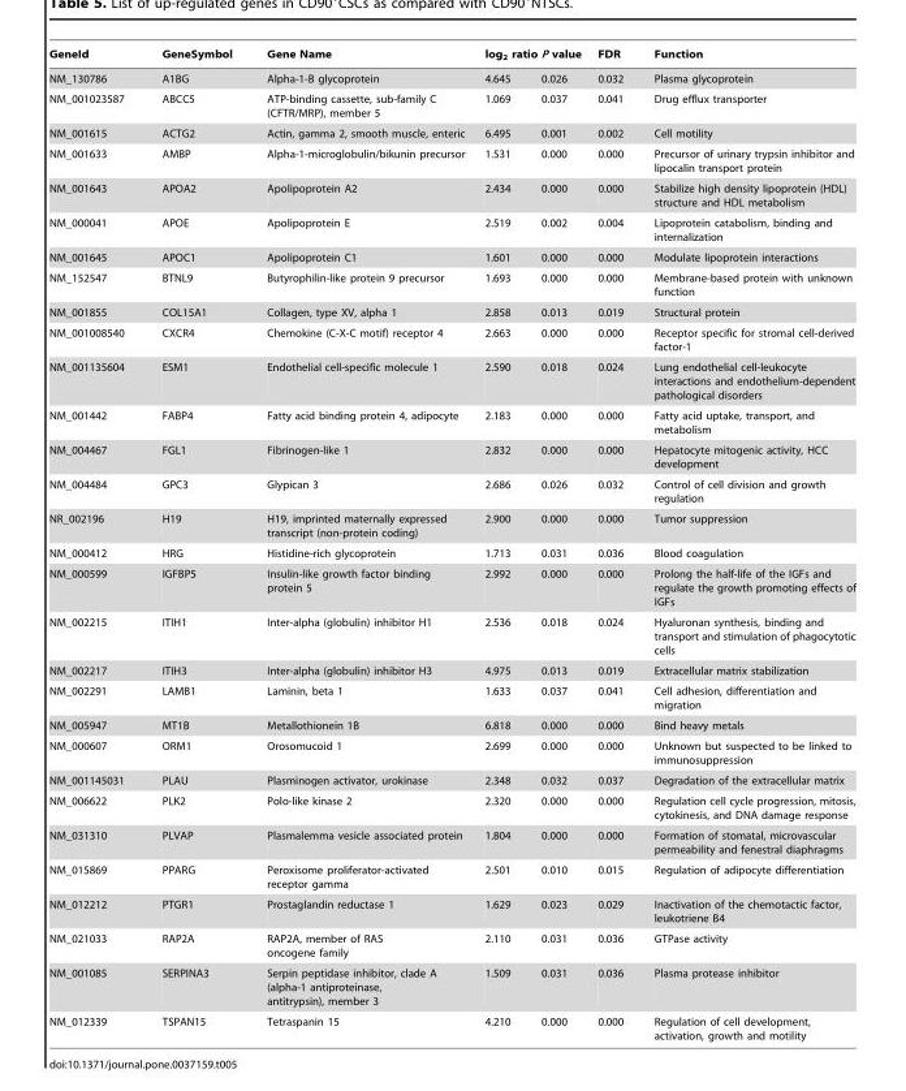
<table><thead><tr><td>GeneId</td><td>GeneSymbol</td><td>Gene Name</td><td>log<sub>2</sub> ratio</td><td>P value</td><td>FDR</td><td>Function</td></tr></thead><tbody><tr><td>NM_130786</td><td>A1BG</td><td>Alpha-1-B glycoprotein</td><td>4.645</td><td>0.026</td><td>0.032</td><td>Plasma glycoprotein</td></tr><tr><td>NM_001023587</td><td>ABCC5</td><td>ATP-binding cassette, sub-family C (CFTR/MRP), member 5</td><td>1.069</td><td>0.037</td><td>0.041</td><td>Drug efflux transporter</td></tr><tr><td>NM_001615</td><td>ACTG2</td><td>Actin, gamma 2, smooth muscle, enteric</td><td>6.495</td><td>0.001</td><td>0.002</td><td>Cell motility</td></tr><tr><td>NM_001633</td><td>AMBP</td><td>Alpha-1-microglobulin/bikunin precursor</td><td>1.531</td><td>0.000</td><td>0.000</td><td>Precursor of urinary trypsin inhibitor and lipocalin transport protein</td></tr><tr><td>NM_001643</td><td>APOA2</td><td>Apolipoprotein A2</td><td>2.434</td><td>0.000</td><td>0.000</td><td>Stabilize high density lipoprotein (HDL) structure and HDL metabolism</td></tr><tr><td>NM_000041</td><td>APOE</td><td>Apolipoprotein E</td><td>2.519</td><td>0.002</td><td>0.004</td><td>Lipoprotein catabolism, binding and internalization</td></tr><tr><td>NM_001645</td><td>APOC1</td><td>Apolipoprotein C1</td><td>1.601</td><td>0.000</td><td>0.000</td><td>Modulate lipoprotein interactions</td></tr><tr><td>NM_152547</td><td>BTNL9</td><td>Butyrophilin-like protein 9 precursor</td><td>1.693</td><td>0.000</td><td>0.000</td><td>Membrane-based protein with unknown function</td></tr><tr><td>NM_001855</td><td>COL15A1</td><td>Collagen, type XV, alpha 1</td><td>2.858</td><td>0.013</td><td>0.019</td><td>Structural protein</td></tr><tr><td>NM_001008540</td><td>CXCR4</td><td>Chemokine (C-X-C motif) receptor 4</td><td>2.663</td><td>0.000</td><td>0.000</td><td>Receptor specific for stromal cell-derived factor-1</td></tr><tr><td>NM_001135604</td><td>ESM1</td><td>Endothelial cell-specific molecule 1</td><td>2.590</td><td>0.018</td><td>0.024</td><td>Lung endothelial cell-leukocyte interactions and endothelium-dependent pathological disorders</td></tr><tr><td>NM_001442</td><td>FABP4</td><td>Fatty acid binding protein 4, adipocyte</td><td>2.183</td><td>0.000</td><td>0.000</td><td>Fatty acid uptake, transport, and metabolism</td></tr><tr><td>NM_004467</td><td>FGL1</td><td>Fibrinogen-like 1</td><td>2.832</td><td>0.000</td><td>0.000</td><td>Hepatocyte mitogenic activity, HCC development</td></tr><tr><td>NM_004484</td><td>GPC3</td><td>Glypican 3</td><td>2.686</td><td>0.026</td><td>0.032</td><td>Control of cell division and growth regulation</td></tr><tr><td>NR_002196</td><td>H19</td><td>H19, imprinted maternally expressed transcript (non-protein coding)</td><td>2.900</td><td>0.000</td><td>0.000</td><td>Tumor suppression</td></tr><tr><td>NM_000412</td><td>HRG</td><td>Histidine-rich glycoprotein</td><td>1.713</td><td>0.031</td><td>0.036</td><td>Blood coagulation</td></tr><tr><td>NM_000599</td><td>IGFBP5</td><td>Insulin-like growth factor binding protein 5</td><td>2.992</td><td>0.000</td><td>0.000</td><td>Prolong the half-life of the IGFs and regulate the growth promoting effects of IGFs</td></tr><tr><td>NM_002215</td><td>ITIH1</td><td>Inter-alpha (globulin) inhibitor H1</td><td>2.536</td><td>0.018</td><td>0.024</td><td>Hyaluronan synthesis, binding and transport and stimulation of phagocytotic cells</td></tr><tr><td>NM_002217</td><td>ITIH3</td><td>Inter-alpha (globulin) inhibitor H3</td><td>4.975</td><td>0.013</td><td>0.019</td><td>Extracellular matrix stabilization</td></tr><tr><td>NM_002291</td><td>LAMB1</td><td>Laminin, beta 1</td><td>1.633</td><td>0.037</td><td>0.041</td><td>Cell adhesion, differentiation and migration</td></tr><tr><td>NM_005947</td><td>MT1B</td><td>Metallothionein 1B</td><td>6.818</td><td>0.000</td><td>0.000</td><td>Bind heavy metals</td></tr><tr><td>NM_000607</td><td>ORM1</td><td>Orosomucoid 1</td><td>2.699</td><td>0.000</td><td>0.000</td><td>Unknown but suspected to be linked to immunosuppression</td></tr><tr><td>NM_001145031</td><td>PLAU</td><td>Plasminogen activator, urokinase</td><td>2.348</td><td>0.032</td><td>0.037</td><td>Degradation of the extracellular matrix</td></tr><tr><td>NM_006622</td><td>PLK2</td><td>Polo-like kinase 2</td><td>2.320</td><td>0.000</td><td>0.000</td><td>Regulation cell cycle progression, mitosis, cytokinesis, and DNA damage response</td></tr><tr><td>NM_031310</td><td>PLVAP</td><td>Plasmalemma vesicle associated protein</td><td>1.804</td><td>0.000</td><td>0.000</td><td>Formation of stomatal, microvascular permeability and fenestral diaphragms</td></tr><tr><td>NM_015869</td><td>PPARG</td><td>Peroxisome proliferator-activated receptor gamma</td><td>2.501</td><td>0.010</td><td>0.015</td><td>Regulation of adipocyte differentiation</td></tr><tr><td>NM_012212</td><td>PTGR1</td><td>Prostaglandin reductase 1</td><td>1.629</td><td>0.023</td><td>0.029</td><td>Inactivation of the chemotactic factor, leukotriene B4</td></tr><tr><td>NM_021033</td><td>RAP2A</td><td>RAP2A, member of RAS oncogene family</td><td>2.110</td><td>0.031</td><td>0.036</td><td>GTPase activity</td></tr><tr><td>NM_001085</td><td>SERPINA3</td><td>Serpin peptidase inhibitor, clade A (alpha-1 antiproteinase, antitrypsin), member 3</td><td>1.509</td><td>0.031</td><td>0.036</td><td>Plasma protease inhibitor</td></tr><tr><td>NM_012339</td><td>TSPAN15</td><td>Tetraspanin 15</td><td>4.210</td><td>0.000</td><td>0.000</td><td>Regulation of cell development, activation, growth and motility</td></tr></tbody></table>